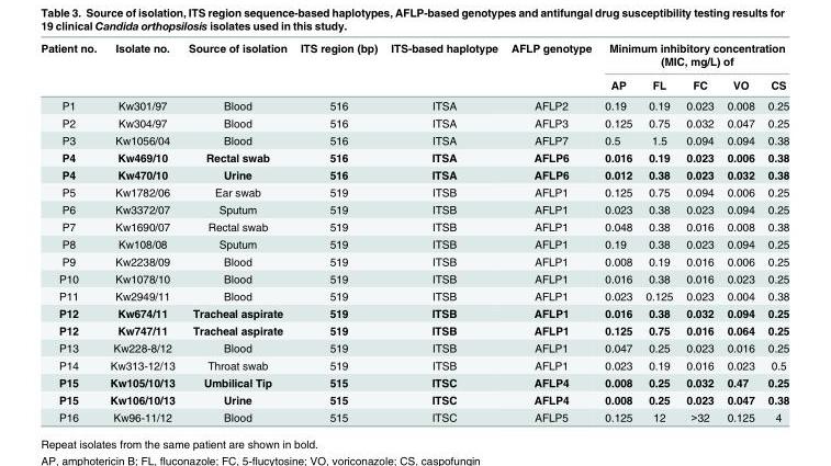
<table><thead><tr><td rowspan="2">Patient no.</td><td rowspan="2">Isolate no.</td><td rowspan="2">Source of isolation</td><td rowspan="2">ITS region (bp)</td><td rowspan="2">ITS-based haplotype</td><td rowspan="2">AFLP genotype</td><td colspan="5">Minimum inhibitory concentration (MIC, mg/L) of</td></tr><tr><td>AP</td><td>FL</td><td>FC</td><td>VO</td><td>CS</td></tr></thead><tbody><tr><td>P1</td><td>Kw301/97</td><td>Blood</td><td>516</td><td>ITSA</td><td>AFLP2</td><td>0.19</td><td>0.19</td><td>0.023</td><td>0.008</td><td>0.25</td></tr><tr><td>P2</td><td>Kw304/97</td><td>Blood</td><td>516</td><td>ITSA</td><td>AFLP3</td><td>0.125</td><td>0.75</td><td>0.032</td><td>0.047</td><td>0.25</td></tr><tr><td>P3</td><td>Kw1056/04</td><td>Blood</td><td>516</td><td>ITSA</td><td>AFLP7</td><td>0.5</td><td>1.5</td><td>0.094</td><td>0.094</td><td>0.38</td></tr><tr><td>P4</td><td>Kw469/10</td><td>Rectal swab</td><td>516</td><td>ITSA</td><td>AFLP6</td><td>0.016</td><td>0.19</td><td>0.023</td><td>0.006</td><td>0.38</td></tr><tr><td>P4</td><td>Kw470/10</td><td>Urine</td><td>516</td><td>ITSA</td><td>AFLP6</td><td>0.012</td><td>0.38</td><td>0.023</td><td>0.032</td><td>0.38</td></tr><tr><td>P5</td><td>Kw1782/06</td><td>Ear swab</td><td>519</td><td>ITSB</td><td>AFLP1</td><td>0.125</td><td>0.75</td><td>0.094</td><td>0.006</td><td>0.25</td></tr><tr><td>P6</td><td>Kw3372/07</td><td>Sputum</td><td>519</td><td>ITSB</td><td>AFLP1</td><td>0.023</td><td>0.38</td><td>0.023</td><td>0.094</td><td>0.25</td></tr><tr><td>P7</td><td>Kw1690/07</td><td>Rectal swab</td><td>519</td><td>ITSB</td><td>AFLP1</td><td>0.048</td><td>0.38</td><td>0.016</td><td>0.008</td><td>0.38</td></tr><tr><td>P8</td><td>Kw108/08</td><td>Sputum</td><td>519</td><td>ITSB</td><td>AFLP1</td><td>0.19</td><td>0.38</td><td>0.023</td><td>0.094</td><td>0.25</td></tr><tr><td>P9</td><td>Kw2238/09</td><td>Blood</td><td>519</td><td>ITSB</td><td>AFLP1</td><td>0.008</td><td>0.19</td><td>0.016</td><td>0.006</td><td>0.25</td></tr><tr><td>P10</td><td>Kw1078/10</td><td>Blood</td><td>519</td><td>ITSB</td><td>AFLP1</td><td>0.016</td><td>0.38</td><td>0.016</td><td>0.023</td><td>0.25</td></tr><tr><td>P11</td><td>Kw2949/11</td><td>Blood</td><td>519</td><td>ITSB</td><td>AFLP1</td><td>0.023</td><td>0.125</td><td>0.023</td><td>0.004</td><td>0.38</td></tr><tr><td>P12</td><td>Kw674/11</td><td>Tracheal aspirate</td><td>519</td><td>ITSB</td><td>AFLP1</td><td>0.016</td><td>0.38</td><td>0.032</td><td>0.094</td><td>0.25</td></tr><tr><td>P12</td><td>Kw747/11</td><td>Tracheal aspirate</td><td>519</td><td>ITSB</td><td>AFLP1</td><td>0.125</td><td>0.75</td><td>0.016</td><td>0.064</td><td>0.25</td></tr><tr><td>P13</td><td>Kw228-8/12</td><td>Blood</td><td>519</td><td>ITSB</td><td>AFLP1</td><td>0.047</td><td>0.25</td><td>0.023</td><td>0.016</td><td>0.25</td></tr><tr><td>P14</td><td>Kw313-12/13</td><td>Throat swab</td><td>519</td><td>ITSB</td><td>AFLP1</td><td>0.023</td><td>0.19</td><td>0.016</td><td>0.023</td><td>0.5</td></tr><tr><td>P15</td><td>Kw105/10/13</td><td>Umbilical Tip</td><td>515</td><td>ITSC</td><td>AFLP4</td><td>0.008</td><td>0.25</td><td>0.032</td><td>0.47</td><td>0.25</td></tr><tr><td>P15</td><td>Kw106/10/13</td><td>Urine</td><td>515</td><td>ITSC</td><td>AFLP4</td><td>0.008</td><td>0.25</td><td>0.023</td><td>0.047</td><td>0.38</td></tr><tr><td>P16</td><td>Kw96-11/12</td><td>Blood</td><td>515</td><td>ITSC</td><td>AFLP5</td><td>0.125</td><td>12</td><td>&gt;32</td><td>0.125</td><td>4</td></tr></tbody></table>